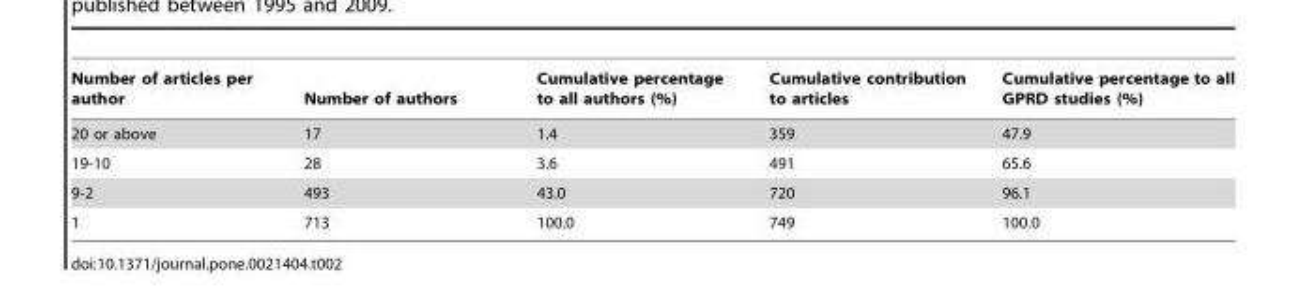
<table><thead><tr><td>Number of articles per author</td><td>Number of authors</td><td>Cumulative percentage to all authors (%)</td><td>Cumulative contribution to articles</td><td>Cumulative percentage to all GPRD studies (%)</td></tr></thead><tbody><tr><td>20 or above</td><td>17</td><td>1.4</td><td>359</td><td>47.9</td></tr><tr><td>19-10</td><td>28</td><td>3.6</td><td>491</td><td>65.6</td></tr><tr><td>9-2</td><td>493</td><td>43.0</td><td>720</td><td>96.1</td></tr><tr><td>1</td><td>713</td><td>100.0</td><td>749</td><td>100.0</td></tr></tbody></table>